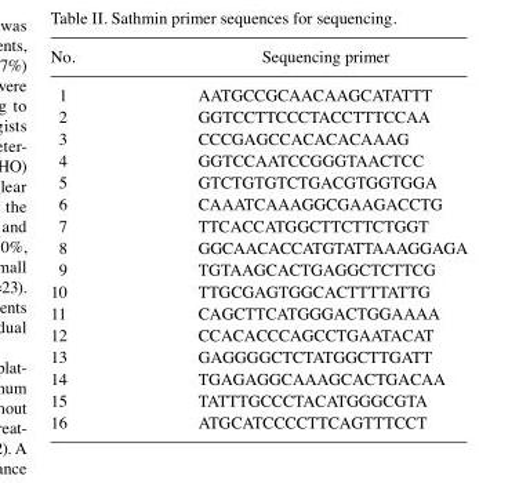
<table><thead><tr><td>No.</td><td>Sequencing primer</td></tr></thead><tbody><tr><td>1</td><td>AATGCCGCAACAAGCATATTT</td></tr><tr><td>2</td><td>GGTCCTTCCCTACCTTTCCAA</td></tr><tr><td>3</td><td>CCCGAGCCACACACAAAG</td></tr><tr><td>4</td><td>GGTCCAATCCGGGTAACTCC</td></tr><tr><td>5</td><td>GTCTGTGTCTGACGTGGTGGA</td></tr><tr><td>6</td><td>CAAATCAAAGGCGAAGACCTG</td></tr><tr><td>7</td><td>TTCACCATGGCTTCTTCTGGT</td></tr><tr><td>8</td><td>GGCAACACCATGTATTAAAGGAGA</td></tr><tr><td>9</td><td>TGTAAGCACTGAGGCTCTTCG</td></tr><tr><td>10</td><td>TTGCGAGTGGCACTTTTATTG</td></tr><tr><td>11</td><td>CAGCTTCATGGGACTGGAAAA</td></tr><tr><td>12</td><td>CCACACCCAGCCTGAATACAT</td></tr><tr><td>13</td><td>GAGGGGCTCTATGGCTTGATT</td></tr><tr><td>14</td><td>TGAGAGGCAAAGCACTGACAA</td></tr><tr><td>15</td><td>TATTTGCCCTACATGGGCGTA</td></tr><tr><td>16</td><td>ATGCATCCCCTTCAGTTTCCT</td></tr></tbody></table>